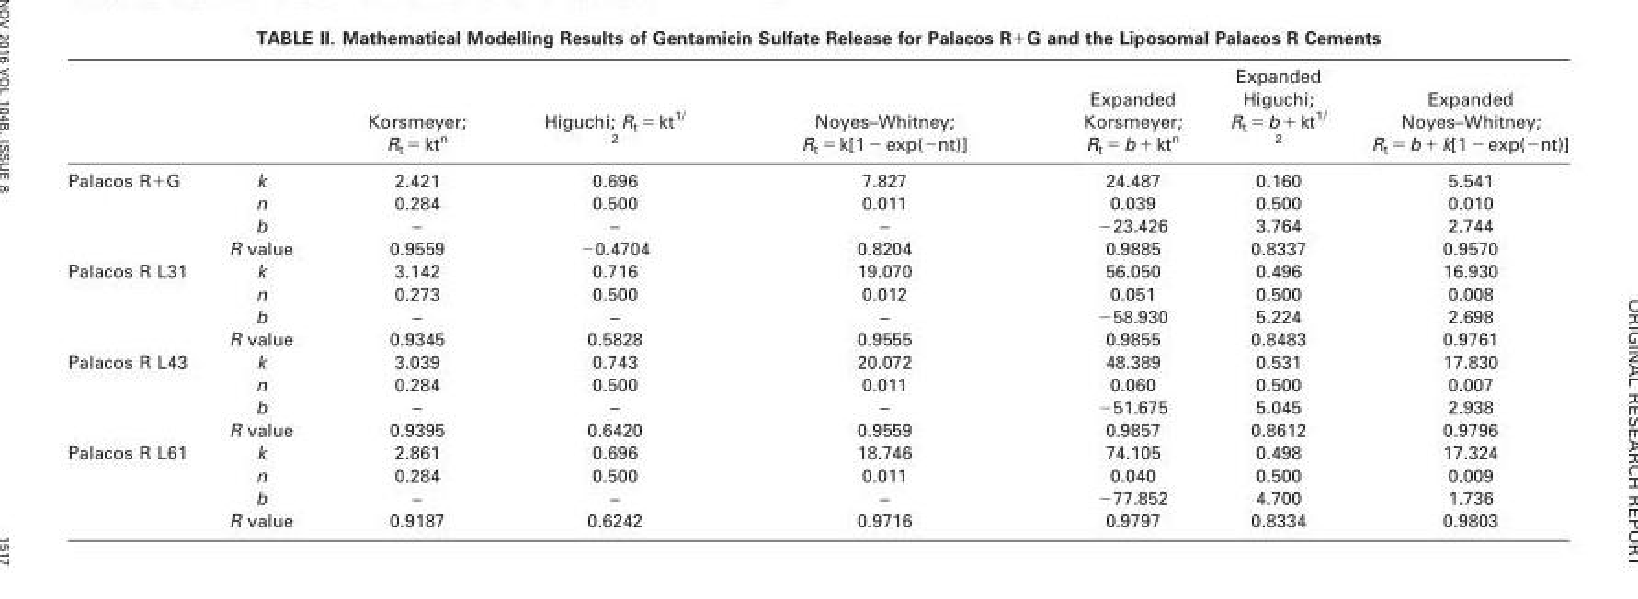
<table><thead><tr><td></td><td></td><td>Korsmeyer; R<sub>t</sub> = kt<sup>n</sup></td><td>Higuchi; R<sub>t</sub> = kt<sup>1/ 2</sup></td><td>Noyes–Whitney; R<sub>t</sub> = k[1 − exp(−nt)]</td><td>Expanded Korsmeyer; R<sub>t</sub> = b + kt<sup>n</sup></td><td>Expanded Higuchi; R<sub>t</sub> = b + kt<sup>1/ 2</sup></td><td>Expanded Noyes–Whitney; R<sub>t</sub> = b + k[1 − exp(−nt)]</td></tr></thead><tbody><tr><td rowspan="4">Palacos R+G</td><td>k</td><td>2.421</td><td>0.696</td><td>7.827</td><td>24.487</td><td>0.160</td><td>5.541</td></tr><tr><td>n</td><td>0.284</td><td>0.500</td><td>0.011</td><td>0.039</td><td>0.500</td><td>0.010</td></tr><tr><td>b</td><td>–</td><td>–</td><td>–</td><td>−23.426</td><td>3.764</td><td>2.744</td></tr><tr><td>R value</td><td>0.9559</td><td>−0.4704</td><td>0.8204</td><td>0.9885</td><td>0.8337</td><td>0.9570</td></tr><tr><td rowspan="4">Palacos R L31</td><td>k</td><td>3.142</td><td>0.716</td><td>19.070</td><td>56.050</td><td>0.496</td><td>16.930</td></tr><tr><td>n</td><td>0.273</td><td>0.500</td><td>0.012</td><td>0.051</td><td>0.500</td><td>0.008</td></tr><tr><td>b</td><td>–</td><td>–</td><td>–</td><td>−58.930</td><td>5.224</td><td>2.698</td></tr><tr><td>R value</td><td>0.9345</td><td>0.5828</td><td>0.9555</td><td>0.9855</td><td>0.8483</td><td>0.9761</td></tr><tr><td rowspan="4">Palacos R L43</td><td>k</td><td>3.039</td><td>0.743</td><td>20.072</td><td>48.389</td><td>0.531</td><td>17.830</td></tr><tr><td>n</td><td>0.284</td><td>0.500</td><td>0.011</td><td>0.060</td><td>0.500</td><td>0.007</td></tr><tr><td>b</td><td>–</td><td>–</td><td>–</td><td>−51.675</td><td>5.045</td><td>2.938</td></tr><tr><td>R value</td><td>0.9395</td><td>0.6420</td><td>0.9559</td><td>0.9857</td><td>0.8612</td><td>0.9796</td></tr><tr><td rowspan="4">Palacos R L61</td><td>k</td><td>2.861</td><td>0.696</td><td>18.746</td><td>74.105</td><td>0.498</td><td>17.324</td></tr><tr><td>n</td><td>0.284</td><td>0.500</td><td>0.011</td><td>0.040</td><td>0.500</td><td>0.009</td></tr><tr><td>b</td><td>–</td><td>–</td><td>–</td><td>−77.852</td><td>4.700</td><td>1.736</td></tr><tr><td>R value</td><td>0.9187</td><td>0.6242</td><td>0.9716</td><td>0.9797</td><td>0.8334</td><td>0.9803</td></tr></tbody></table>